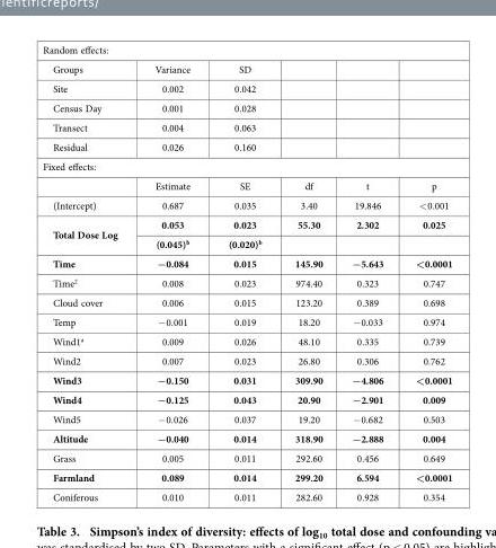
<table><tbody><tr><td colspan="6">Random effects:</td></tr><tr><td>Groups</td><td>Variance</td><td>SD</td><td></td><td></td><td></td></tr><tr><td>Site</td><td>0.002</td><td>0.042</td><td></td><td></td><td></td></tr><tr><td>Census Day</td><td>0.001</td><td>0.028</td><td></td><td></td><td></td></tr><tr><td>Transect</td><td>0.004</td><td>0.063</td><td></td><td></td><td></td></tr><tr><td>Residual</td><td>0.026</td><td>0.160</td><td></td><td></td><td></td></tr><tr><td colspan="6">Fixed effects:</td></tr><tr><td></td><td>Estimate</td><td>SE</td><td>df</td><td>t</td><td>p</td></tr><tr><td>(Intercept)</td><td>0.687</td><td>0.035</td><td>3.40</td><td>19.846</td><td>&lt; 0.001</td></tr><tr><td rowspan="2">Total Dose Log</td><td>0.053</td><td>0.023</td><td>55.30</td><td>2.302</td><td>0.025</td></tr><tr><td>(0.045)<sup>b</sup></td><td>(0.020)<sup>b</sup></td><td></td><td></td><td></td></tr><tr><td>Time</td><td>−0.084</td><td>0.015</td><td>145.90</td><td>−5.643</td><td>&lt;0.0001</td></tr><tr><td>Time<sup>2</sup></td><td>0.008</td><td>0.023</td><td>974.40</td><td>0.323</td><td>0.747</td></tr><tr><td>Cloud cover</td><td>0.006</td><td>0.015</td><td>123.20</td><td>0.389</td><td>0.698</td></tr><tr><td>Temp</td><td>− 0.001</td><td>0.019</td><td>18.20</td><td>− 0.033</td><td>0.974</td></tr><tr><td>Wind1<sup>a</sup></td><td>0.009</td><td>0.026</td><td>48.10</td><td>0.335</td><td>0.739</td></tr><tr><td>Wind2</td><td>0.007</td><td>0.023</td><td>26.80</td><td>0.306</td><td>0.762</td></tr><tr><td>Wind3</td><td>−0.150</td><td>0.031</td><td>309.90</td><td>−4.806</td><td>&lt;0.0001</td></tr><tr><td>Wind4</td><td>−0.125</td><td>0.043</td><td>20.90</td><td>−2.901</td><td>0.009</td></tr><tr><td>Wind5</td><td>− 0.026</td><td>0.037</td><td>19.20</td><td>− 0.682</td><td>0.503</td></tr><tr><td>Altitude</td><td>−0.040</td><td>0.014</td><td>318.90</td><td>−2.888</td><td>0.004</td></tr><tr><td>Grass</td><td>0.005</td><td>0.011</td><td>292.60</td><td>0.456</td><td>0.649</td></tr><tr><td>Farmland</td><td>0.089</td><td>0.014</td><td>299.20</td><td>6.594</td><td>&lt;0.0001</td></tr><tr><td>Coniferous</td><td>0.010</td><td>0.011</td><td>282.60</td><td>0.928</td><td>0.354</td></tr></tbody></table>